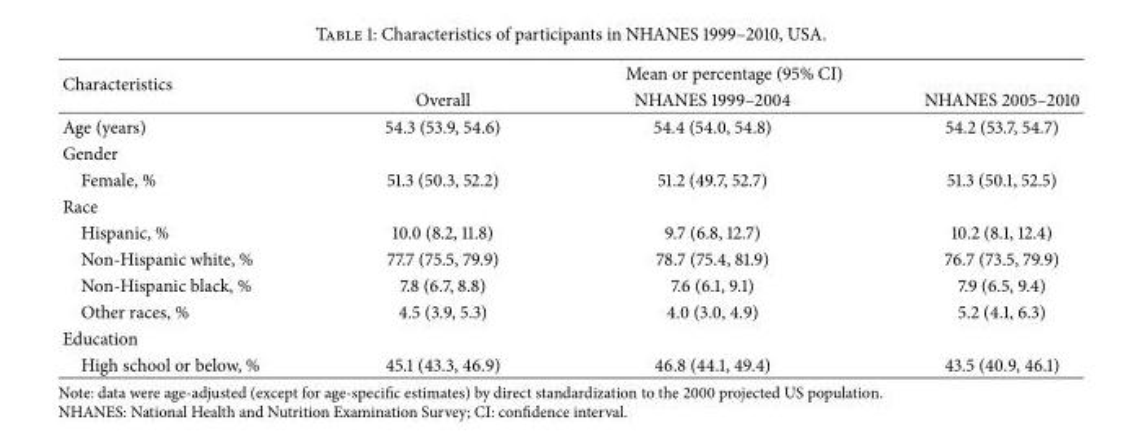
<table><thead><tr><td rowspan="2">Characteristics</td><td colspan="3">Mean or percentage (95% CI)</td></tr><tr><td>Overall</td><td>NHANES 1999–2004</td><td>NHANES 2005–2010</td></tr></thead><tbody><tr><td>Age (years)</td><td>54.3 (53.9, 54.6)</td><td>54.4 (54.0, 54.8)</td><td>54.2 (53.7, 54.7)</td></tr><tr><td colspan="4">Gender</td></tr><tr><td>Female, %</td><td>51.3 (50.3, 52.2)</td><td>51.2 (49.7, 52.7)</td><td>51.3 (50.1, 52.5)</td></tr><tr><td colspan="4">Race</td></tr><tr><td>Hispanic, %</td><td>10.0 (8.2, 11.8)</td><td>9.7 (6.8, 12.7)</td><td>10.2 (8.1, 12.4)</td></tr><tr><td>Non-Hispanic white, %</td><td>77.7 (75.5, 79.9)</td><td>78.7 (75.4, 81.9)</td><td>76.7 (73.5, 79.9)</td></tr><tr><td>Non-Hispanic black, %</td><td>7.8 (6.7, 8.8)</td><td>7.6 (6.1, 9.1)</td><td>7.9 (6.5, 9.4)</td></tr><tr><td>Other races, %</td><td>4.5 (3.9, 5.3)</td><td>4.0 (3.0, 4.9)</td><td>5.2 (4.1, 6.3)</td></tr><tr><td colspan="4">Education</td></tr><tr><td>High school or below, %</td><td>45.1 (43.3, 46.9)</td><td>46.8 (44.1, 49.4)</td><td>43.5 (40.9, 46.1)</td></tr></tbody></table>